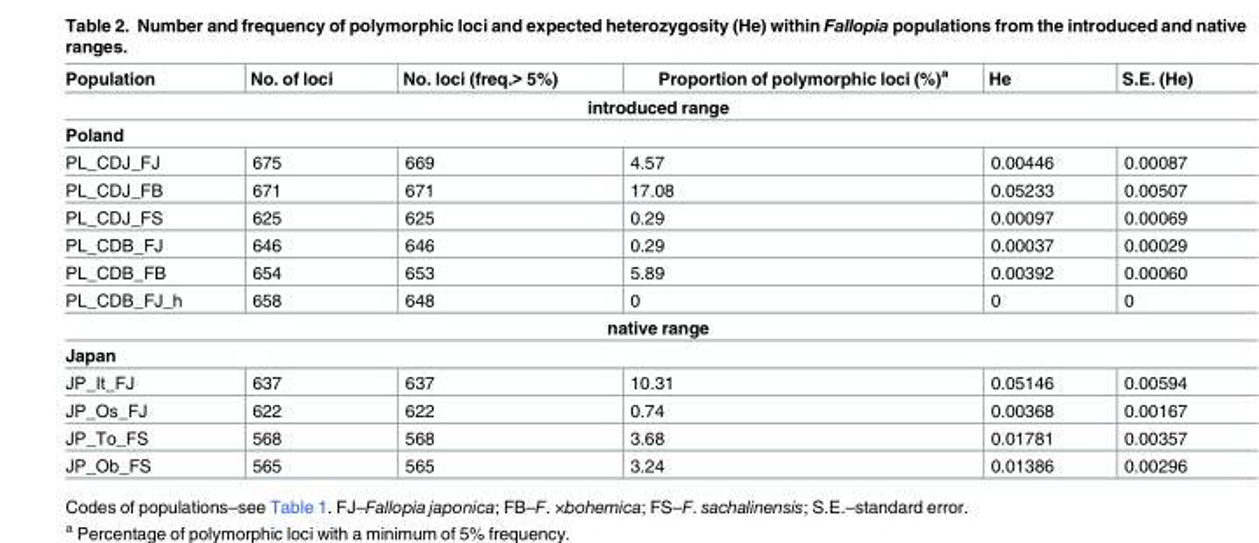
<table><thead><tr><td>Population</td><td>No. of loci</td><td>No. loci (freq.&gt; 5%)</td><td>Proportion of polymorphic loci (%)<sup>a</sup></td><td>He</td><td>S.E. (He)</td></tr></thead><tbody><tr><td colspan="6">introduced range</td></tr><tr><td colspan="6">Poland</td></tr><tr><td>PL_CDJ_FJ</td><td>675</td><td>669</td><td>4.57</td><td>0.00446</td><td>0.00087</td></tr><tr><td>PL_CDJ_FB</td><td>671</td><td>671</td><td>17.08</td><td>0.05233</td><td>0.00507</td></tr><tr><td>PL_CDJ_FS</td><td>625</td><td>625</td><td>0.29</td><td>0.00097</td><td>0.00069</td></tr><tr><td>PL_CDB_FJ</td><td>646</td><td>646</td><td>0.29</td><td>0.00037</td><td>0.00029</td></tr><tr><td>PL_CDB_FB</td><td>654</td><td>653</td><td>5.89</td><td>0.00392</td><td>0.00060</td></tr><tr><td>PL_CDB_FJ_h</td><td>658</td><td>648</td><td>0</td><td>0</td><td>0</td></tr><tr><td colspan="6">native range</td></tr><tr><td colspan="6">Japan</td></tr><tr><td>JP_It_FJ</td><td>637</td><td>637</td><td>10.31</td><td>0.05146</td><td>0.00594</td></tr><tr><td>JP_Os_FJ</td><td>622</td><td>622</td><td>0.74</td><td>0.00368</td><td>0.00167</td></tr><tr><td>JP_To_FS</td><td>568</td><td>568</td><td>3.68</td><td>0.01781</td><td>0.00357</td></tr><tr><td>JP_Ob_FS</td><td>565</td><td>565</td><td>3.24</td><td>0.01386</td><td>0.00296</td></tr></tbody></table>